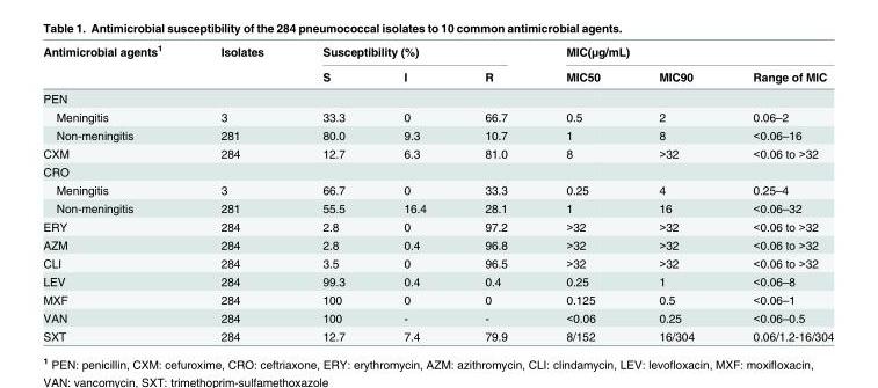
<table><thead><tr><td rowspan="2">Antimicrobial agents<sup>1</sup></td><td rowspan="2">Isolates</td><td colspan="3">Susceptibility (%)</td><td colspan="3">MIC(μg/mL)</td></tr><tr><td>S</td><td>I</td><td>R</td><td>MIC50</td><td>MIC90</td><td>Range of MIC</td></tr></thead><tbody><tr><td colspan="8">PEN</td></tr><tr><td>Meningitis</td><td>3</td><td>33.3</td><td>0</td><td>66.7</td><td>0.5</td><td>2</td><td>0.06–2</td></tr><tr><td>Non-meningitis</td><td>281</td><td>80.0</td><td>9.3</td><td>10.7</td><td>1</td><td>8</td><td>&lt;0.06–16</td></tr><tr><td>CXM</td><td>284</td><td>12.7</td><td>6.3</td><td>81.0</td><td>8</td><td>&gt;32</td><td>&lt;0.06 to &gt;32</td></tr><tr><td colspan="8">CRO</td></tr><tr><td>Meningitis</td><td>3</td><td>66.7</td><td>0</td><td>33.3</td><td>0.25</td><td>4</td><td>0.25–4</td></tr><tr><td>Non-meningitis</td><td>281</td><td>55.5</td><td>16.4</td><td>28.1</td><td>1</td><td>16</td><td>&lt;0.06–32</td></tr><tr><td>ERY</td><td>284</td><td>2.8</td><td>0</td><td>97.2</td><td>&gt;32</td><td>&gt;32</td><td>&lt;0.06 to &gt;32</td></tr><tr><td>AZM</td><td>284</td><td>2.8</td><td>0.4</td><td>96.8</td><td>&gt;32</td><td>&gt;32</td><td>&lt;0.06 to &gt;32</td></tr><tr><td>CLI</td><td>284</td><td>3.5</td><td>0</td><td>96.5</td><td>&gt;32</td><td>&gt;32</td><td>&lt;0.06 to &gt;32</td></tr><tr><td>LEV</td><td>284</td><td>99.3</td><td>0.4</td><td>0.4</td><td>0.25</td><td>1</td><td>&lt;0.06–8</td></tr><tr><td>MXF</td><td>284</td><td>100</td><td>0</td><td>0</td><td>0.125</td><td>0.5</td><td>&lt;0.06–1</td></tr><tr><td>VAN</td><td>284</td><td>100</td><td>-</td><td>-</td><td>&lt;0.06</td><td>0.25</td><td>&lt;0.06–0.5</td></tr><tr><td>SXT</td><td>284</td><td>12.7</td><td>7.4</td><td>79.9</td><td>8/152</td><td>16/304</td><td>0.06/1.2-16/304</td></tr></tbody></table>